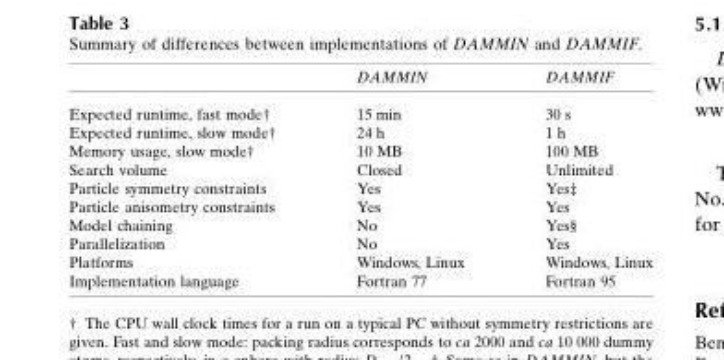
<table><thead><tr><td></td><td>DAMMIN</td><td>DAMMIF</td></tr></thead><tbody><tr><td>Expected runtime, fast mode†</td><td>15 min</td><td>30 s</td></tr><tr><td>Expected runtime, slow mode†</td><td>24 h</td><td>1 h</td></tr><tr><td>Memory usage, slow mode†</td><td>10 MB</td><td>100 MB</td></tr><tr><td>Search volume</td><td>Closed</td><td>Unlimited</td></tr><tr><td>Particle symmetry constraints</td><td>Yes</td><td>Yes‡</td></tr><tr><td>Particle anisometry constraints</td><td>Yes</td><td>Yes</td></tr><tr><td>Model chaining</td><td>No</td><td>Yes§</td></tr><tr><td>Parallelization</td><td>No</td><td>Yes</td></tr><tr><td>Platforms</td><td>Windows, Linux</td><td>Windows, Linux</td></tr><tr><td>Implementation language</td><td>Fortran 77</td><td>Fortran 95</td></tr></tbody></table>